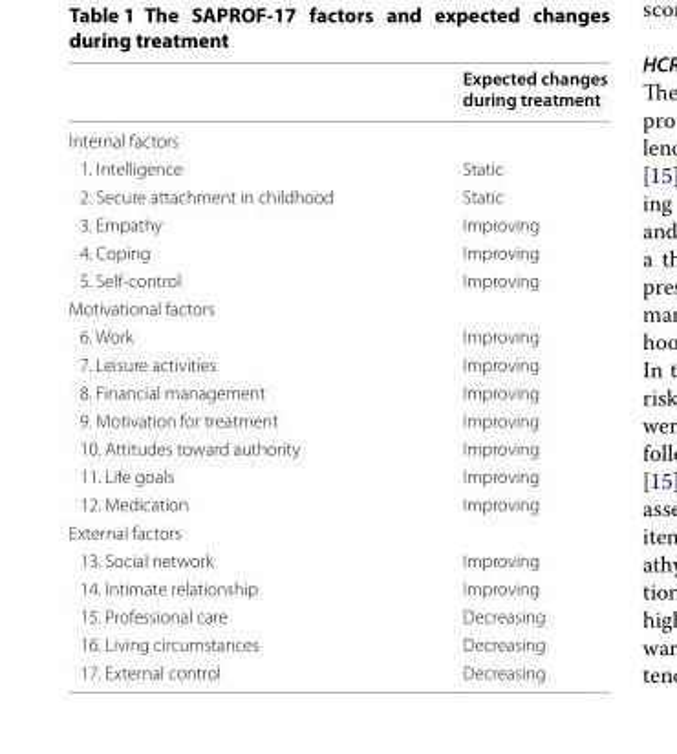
<table><thead><tr><td></td><td>Expected changes during treatment</td></tr></thead><tbody><tr><td colspan="2">Internal factors</td></tr><tr><td>1. Intelligence</td><td>Static</td></tr><tr><td>2. Secure attachment in childhood</td><td>Static</td></tr><tr><td>3. Empathy</td><td>Improving</td></tr><tr><td>4. Coping</td><td>Improving</td></tr><tr><td>5. Self-control</td><td>Improving</td></tr><tr><td colspan="2">Motivational factors</td></tr><tr><td>6. Work</td><td>Improving</td></tr><tr><td>7. Leisure activities</td><td>Improving</td></tr><tr><td>8. Financial management</td><td>Improving</td></tr><tr><td>9. Motivation for treatment</td><td>Improving</td></tr><tr><td>10. Attitudes toward authority</td><td>Improving</td></tr><tr><td>11. Life goals</td><td>Improving</td></tr><tr><td>12. Medication</td><td>Improving</td></tr><tr><td colspan="2">External factors</td></tr><tr><td>13. Social network</td><td>Improving</td></tr><tr><td>14. Intimate relationship</td><td>Improving</td></tr><tr><td>15. Professional care</td><td>Decreasing</td></tr><tr><td>16. Living circumstances</td><td>Decreasing</td></tr><tr><td>17. External control</td><td>Decreasing</td></tr></tbody></table>